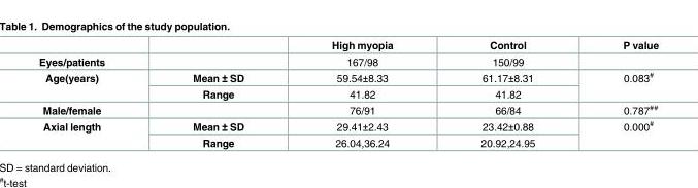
<table><thead><tr><td></td><td></td><td>High myopia</td><td>Control</td><td>P value</td></tr></thead><tbody><tr><td>Eyes/patients</td><td></td><td>167/98</td><td>150/99</td><td></td></tr><tr><td rowspan="2">Age(years)</td><td>Mean ± SD</td><td>59.54±8.33</td><td>61.17±8.31</td><td rowspan="2">0.083<sup>#</sup></td></tr><tr><td>Range</td><td>41.82</td><td>41.82</td></tr><tr><td>Male/female</td><td></td><td>76/91</td><td>66/84</td><td>0.787<sup>##</sup></td></tr><tr><td rowspan="2">Axial length</td><td>Mean ± SD</td><td>29.41±2.43</td><td>23.42±0.88</td><td rowspan="2">0.000<sup>#</sup></td></tr><tr><td>Range</td><td>26.04,36.24</td><td>20.92,24.95</td></tr></tbody></table>